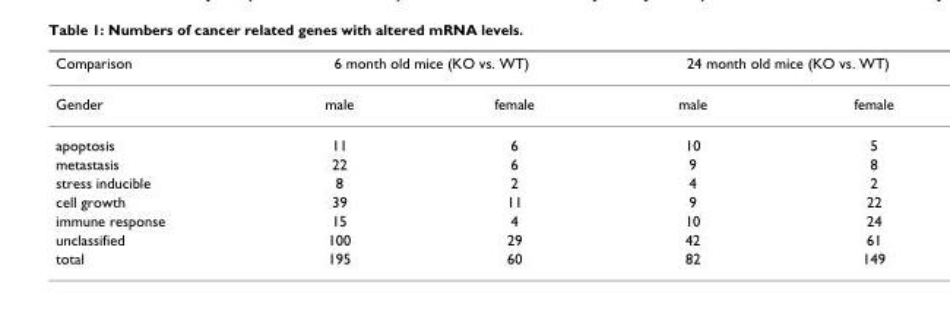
<table><thead><tr><td rowspan="2">Comparison Gender</td><td colspan="2">6 month old mice (KO vs. WT)</td><td colspan="2">24 month old mice (KO vs. WT)</td></tr><tr><td>male</td><td>female</td><td>male</td><td>female</td></tr></thead><tbody><tr><td>apoptosis</td><td>11</td><td>6</td><td>10</td><td>5</td></tr><tr><td>metastasis</td><td>22</td><td>6</td><td>9</td><td>8</td></tr><tr><td>stress inducible</td><td>8</td><td>2</td><td>4</td><td>2</td></tr><tr><td>cell growth</td><td>39</td><td>11</td><td>9</td><td>22</td></tr><tr><td>immune response</td><td>15</td><td>4</td><td>10</td><td>24</td></tr><tr><td>unclassified</td><td>100</td><td>29</td><td>42</td><td>61</td></tr><tr><td>total</td><td>195</td><td>60</td><td>82</td><td>149</td></tr></tbody></table>